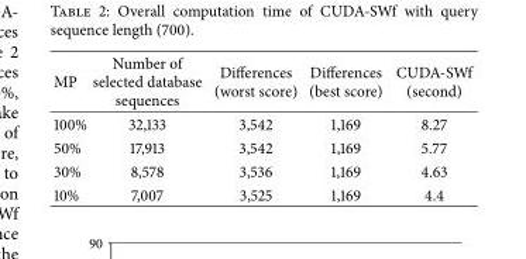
<table><thead><tr><td>MP</td><td>Number of selected database sequences</td><td>Differences (worst score)</td><td>Differences (best score)</td><td>CUDA-SWf (second)</td></tr></thead><tbody><tr><td>100%</td><td>32,133</td><td>3,542</td><td>1,169</td><td>8.27</td></tr><tr><td>50%</td><td>17,913</td><td>3,542</td><td>1,169</td><td>5.77</td></tr><tr><td>30%</td><td>8,578</td><td>3,536</td><td>1,169</td><td>4.63</td></tr><tr><td>10%</td><td>7,007</td><td>3,525</td><td>1,169</td><td>4.4</td></tr></tbody></table>